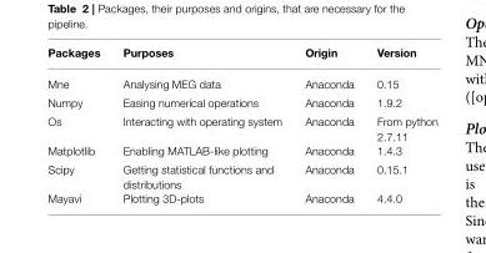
<table><thead><tr><td>Packages</td><td>Purposes</td><td>Origin</td><td>Version</td></tr></thead><tbody><tr><td>Mne</td><td>Analysing MEG data</td><td>Anaconda</td><td>0.15</td></tr><tr><td>Numpy</td><td>Easing numerical operations</td><td>Anaconda</td><td>1.9.2</td></tr><tr><td>Os</td><td>Interacting with operating system</td><td>Anaconda</td><td>From python 2.7.11</td></tr><tr><td>Matplotlib</td><td>Enabling MATLAB-like plotting</td><td>Anaconda</td><td>1.4.3</td></tr><tr><td>Scipy</td><td>Getting statistical functions and distributions</td><td>Anaconda</td><td>0.15.1</td></tr><tr><td>Mayavi</td><td>Plotting 3D-plots</td><td>Anaconda</td><td>4.4.0</td></tr></tbody></table>